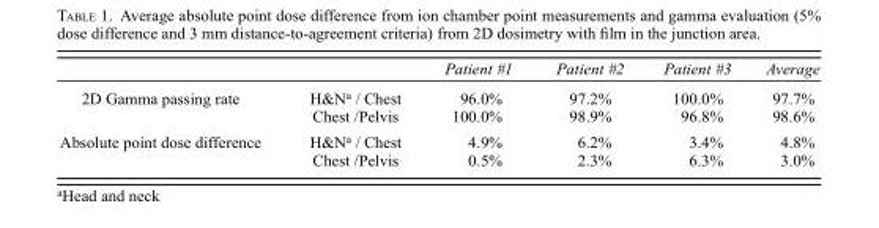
<table><thead><tr><td></td><td></td><td>Patient #1</td><td>Patient #2</td><td>Patient #3</td><td>Average</td></tr></thead><tbody><tr><td rowspan="2">2D Gamma passing rate</td><td>H&amp;N<sup>a</sup> / Chest</td><td>96.0%</td><td>97.2%</td><td>100.0%</td><td>97.7%</td></tr><tr><td>Chest /Pelvis</td><td>100.0%</td><td>98.9%</td><td>96.8%</td><td>98.6%</td></tr><tr><td rowspan="2">Absolute point dose difference</td><td>H&amp;N<sup>a</sup> / Chest</td><td>4.9%</td><td>6.2%</td><td>3.4%</td><td>4.8%</td></tr><tr><td>Chest /Pelvis</td><td>0.5%</td><td>2.3%</td><td>6.3%</td><td>3.0%</td></tr></tbody></table>